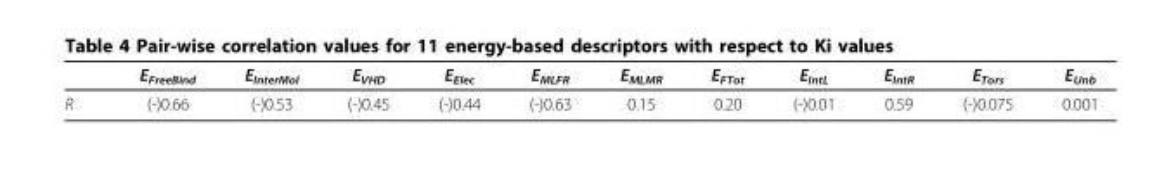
<table><thead><tr><td></td><td>E<sub>FreeBind</sub></td><td>E<sub>InterMol</sub></td><td>E<sub>VHD</sub></td><td>E<sub>Elec</sub></td><td>E<sub>MLFR</sub></td><td>E<sub>MLMR</sub></td><td>E<sub>FTot</sub></td><td>E<sub>IntL</sub></td><td>E<sub>IntR</sub></td><td>E<sub>Tors</sub></td><td>E<sub>Unb</sub></td></tr></thead><tbody><tr><td>R</td><td>(-)0.66</td><td>(-)0.53</td><td>(-)0.45</td><td>(-)0.44</td><td>(-)0.63</td><td>0.15</td><td>0.20</td><td>(-)0.01</td><td>0.59</td><td>(-)0.075</td><td>0.001</td></tr></tbody></table>